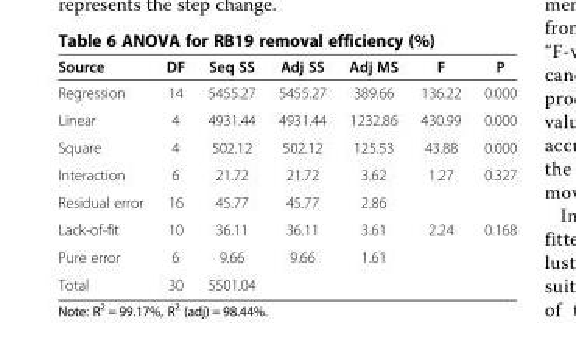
<table><thead><tr><td>Source</td><td>DF</td><td>Seq SS</td><td>Adj SS</td><td>Adj MS</td><td>F</td><td>P</td></tr></thead><tbody><tr><td>Regression</td><td>14</td><td>5455.27</td><td>5455.27</td><td>389.66</td><td>136.22</td><td>0.000</td></tr><tr><td>Linear</td><td>4</td><td>4931.44</td><td>4931.44</td><td>1232.86</td><td>430.99</td><td>0.000</td></tr><tr><td>Square</td><td>4</td><td>502.12</td><td>502.12</td><td>125.53</td><td>43.88</td><td>0.000</td></tr><tr><td>Interaction</td><td>6</td><td>21.72</td><td>21.72</td><td>3.62</td><td>1.27</td><td>0.327</td></tr><tr><td>Residual error</td><td>16</td><td>45.77</td><td>45.77</td><td>2.86</td><td></td><td></td></tr><tr><td>Lack-of-fit</td><td>10</td><td>36.11</td><td>36.11</td><td>3.61</td><td>2.24</td><td>0.168</td></tr><tr><td>Pure error</td><td>6</td><td>9.66</td><td>9.66</td><td>1.61</td><td></td><td></td></tr><tr><td>Total</td><td>30</td><td>5501.04</td><td></td><td></td><td></td><td></td></tr></tbody></table>